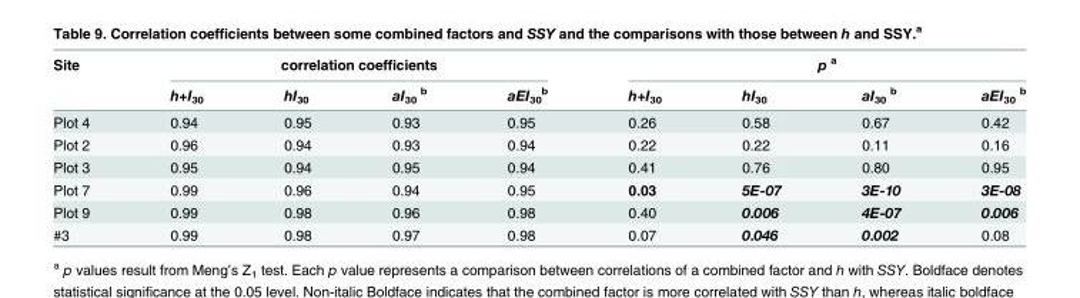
<table><thead><tr><td rowspan="2">Site</td><td colspan="4">correlation coefficients</td><td colspan="4">p <sup>a</sup></td></tr><tr><td>h+I<sub>30</sub></td><td>hI<sub>30</sub></td><td>aI<sub>30</sub> <sup>b</sup></td><td>aEI<sub>30</sub> <sup>b</sup></td><td>h+I<sub>30</sub></td><td>hI<sub>30</sub></td><td>aI<sub>30</sub> <sup>b</sup></td><td>aEI<sub>30</sub> <sup>b</sup></td></tr></thead><tbody><tr><td>Plot 4</td><td>0.94</td><td>0.95</td><td>0.93</td><td>0.95</td><td>0.26</td><td>0.58</td><td>0.67</td><td>0.42</td></tr><tr><td>Plot 2</td><td>0.96</td><td>0.94</td><td>0.93</td><td>0.94</td><td>0.22</td><td>0.22</td><td>0.11</td><td>0.16</td></tr><tr><td>Plot 3</td><td>0.95</td><td>0.94</td><td>0.95</td><td>0.94</td><td>0.41</td><td>0.76</td><td>0.80</td><td>0.95</td></tr><tr><td>Plot 7</td><td>0.99</td><td>0.96</td><td>0.94</td><td>0.95</td><td>0.03</td><td>5E-07</td><td>3E-10</td><td>3E-08</td></tr><tr><td>Plot 9</td><td>0.99</td><td>0.98</td><td>0.96</td><td>0.98</td><td>0.40</td><td>0.006</td><td>4E-07</td><td>0.006</td></tr><tr><td>#3</td><td>0.99</td><td>0.98</td><td>0.97</td><td>0.98</td><td>0.07</td><td>0.046</td><td>0.002</td><td>0.08</td></tr></tbody></table>